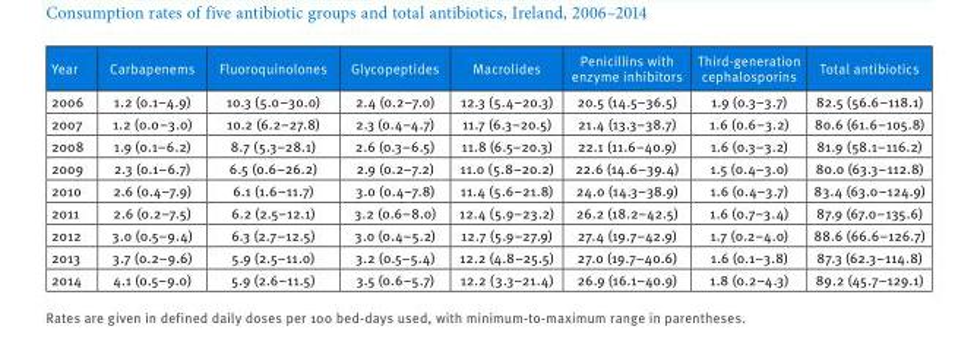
<table><thead><tr><td>Year</td><td>Carbapenems</td><td>Fluoroquinolones</td><td>Glycopeptides</td><td>Macrolides</td><td>Penicillins with enzyme inhibitors</td><td>Third-generation cephalosporins</td><td>Total antibiotics</td></tr></thead><tbody><tr><td>2006</td><td>1.2 (0.1–4.9)</td><td>10.3 (5.0–30.0)</td><td>2.4 (0.2–7.0)</td><td>12.3 (5.4–20.3)</td><td>20.5 (14.5–36.5)</td><td>1.9 (0.3–3.7)</td><td>82.5 (56.6–118.1)</td></tr><tr><td>2007</td><td>1.2 (0.0–3.0)</td><td>10.2 (6.2–27.8)</td><td>2.3 (0.4–4.7)</td><td>11.7 (6.3–20.5)</td><td>21.4 (13.3–38.7)</td><td>1.6 (0.6–3.2)</td><td>80.6 (61.6–105.8)</td></tr><tr><td>2008</td><td>1.9 (0.1–6.2)</td><td>8.7 (5.3–28.1)</td><td>2.6 (0.3–6.5)</td><td>11.8 (6.5–20.3)</td><td>22.1 (11.6–40.9)</td><td>1.6 (0.3–3.2)</td><td>81.9 (58.1–116.2)</td></tr><tr><td>2009</td><td>2.3 (0.1–6.7)</td><td>6.5 (0.6–26.2)</td><td>2.9 (0.2–7.2)</td><td>11.0 (5.8–20.2)</td><td>22.6 (14.6–39.4)</td><td>1.5 (0.4–3.0)</td><td>80.0 (63.3–112.8)</td></tr><tr><td>2010</td><td>2.6 (0.4–7.9)</td><td>6.1 (1.6–11.7)</td><td>3.0 (0.4–7.8)</td><td>11.4 (5.6–21.8)</td><td>24.0 (14.3–38.9)</td><td>1.6 (0.4–3.7)</td><td>83.4 (63.0–124.9)</td></tr><tr><td>2011</td><td>2.6 (0.2–7.5)</td><td>6.2 (2.5–12.1)</td><td>3.2 (0.6–8.0)</td><td>12.4 (5.9–23.2)</td><td>26.2 (18.2–42.5)</td><td>1.6 (0.7–3.4)</td><td>87.9 (67.0–135.6)</td></tr><tr><td>2012</td><td>3.0 (0.5–9.4)</td><td>6.3 (2.7–12.5)</td><td>3.0 (0.4–5.2)</td><td>12.7 (5.9–27.9)</td><td>27.4 (19.7–42.9)</td><td>1.7 (0.2–4.0)</td><td>88.6 (66.6–126.7)</td></tr><tr><td>2013</td><td>3.7 (0.2–9.6)</td><td>5.9 (2.5–11.0)</td><td>3.2 (0.5–5.4)</td><td>12.2 (4.8–25.5)</td><td>27.0 (19.7–40.6)</td><td>1.6 (0.1–3.8)</td><td>87.3 (62.3–114.8)</td></tr><tr><td>2014</td><td>4.1 (0.5–9.0)</td><td>5.9 (2.6–11.5)</td><td>3.5 (0.6–5.7)</td><td>12.2 (3.3–21.4)</td><td>26.9 (16.1–40.9)</td><td>1.8 (0.2–4.3)</td><td>89.2 (45.7–129.1)</td></tr></tbody></table>